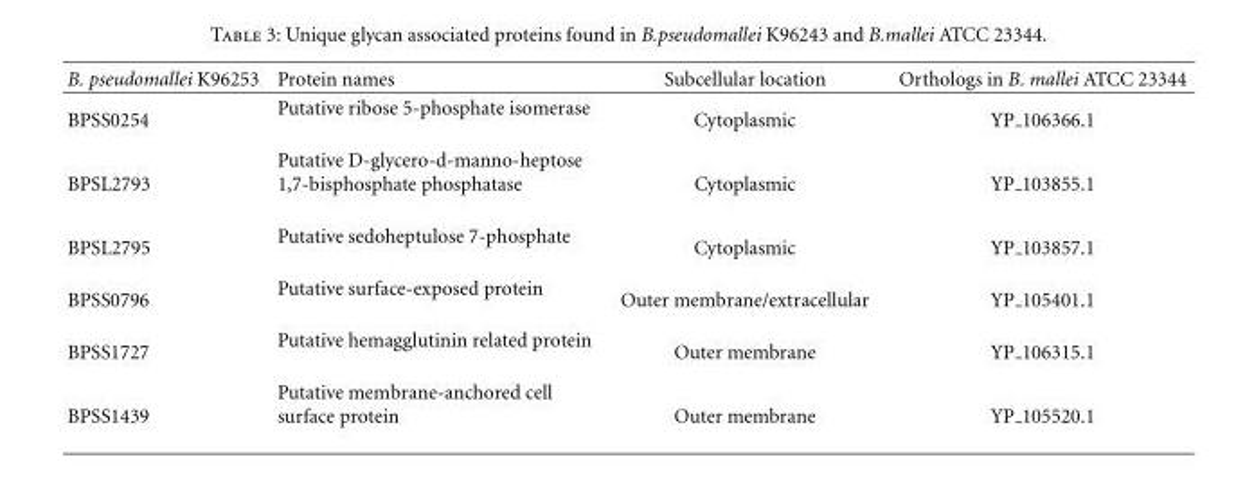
<table><thead><tr><td>B. pseudomallei K96253</td><td>Protein names</td><td>Subcellular location</td><td>Orthologs in B. mallei ATCC 23344</td></tr></thead><tbody><tr><td>BPSS0254</td><td>Putative ribose 5-phosphate isomerase</td><td>Cytoplasmic</td><td>YP 106366.1</td></tr><tr><td>BPSL2793</td><td>Putative D-glycero-d-manno-heptose 1,7-bisphosphate phosphatase</td><td>Cytoplasmic</td><td>YP 103855.1</td></tr><tr><td>BPSL2795</td><td>Putative sedoheptulose 7-phosphate</td><td>Cytoplasmic</td><td>YP 103857.1</td></tr><tr><td>BPSS0796</td><td>Putative surface-exposed protein</td><td>Outer membrane/extracellular</td><td>YP 105401.1</td></tr><tr><td>BPSS1727</td><td>Putative hemagglutinin related protein</td><td>Outer membrane</td><td>YP 106315.1</td></tr><tr><td>BPSS1439</td><td>Putative membrane-anchored cell surface protein</td><td>Outer membrane</td><td>YP 105520.1</td></tr></tbody></table>